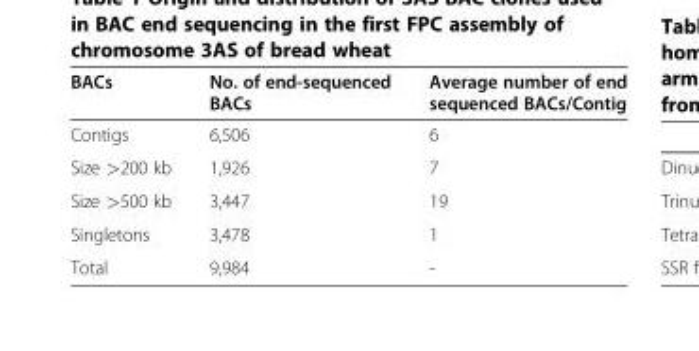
<table><thead><tr><td>BACs</td><td>No. of end-sequenced BACs</td><td>Average number of end sequenced BACs/Contig</td></tr></thead><tbody><tr><td>Contigs</td><td>6,506</td><td>6</td></tr><tr><td>Size &gt;200 kb</td><td>1,926</td><td>7</td></tr><tr><td>Size &gt;500 kb</td><td>3,447</td><td>19</td></tr><tr><td>Singletons</td><td>3,478</td><td>1</td></tr><tr><td>Total</td><td>9,984</td><td>-</td></tr></tbody></table>